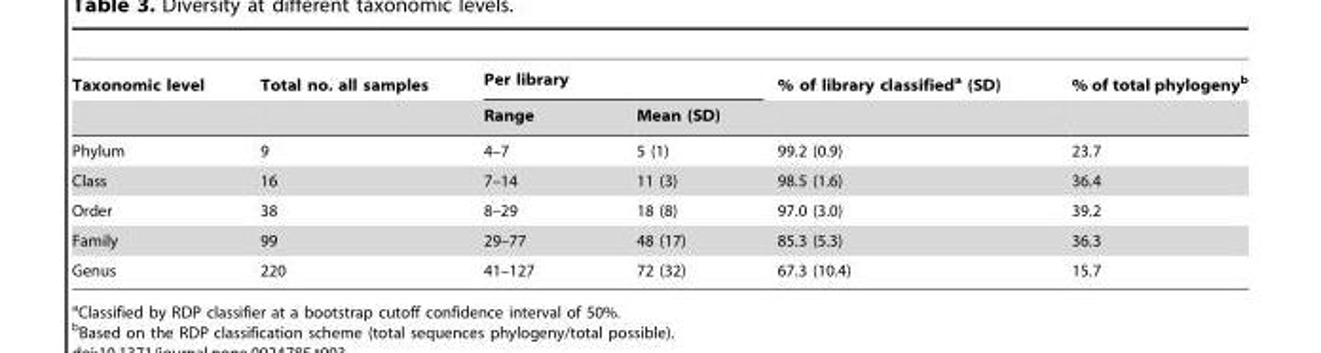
<table><thead><tr><td rowspan="2">Taxonomic level</td><td rowspan="2">Total no. all samples</td><td colspan="2">Per library</td><td rowspan="2">% of library classified<sup>a</sup> (SD)</td><td rowspan="2">% of total phylogeny<sup>b</sup></td></tr><tr><td>Range</td><td>Mean (SD)</td></tr></thead><tbody><tr><td>Phylum</td><td>9</td><td>4–7</td><td>5 (1)</td><td>99.2 (0.9)</td><td>23.7</td></tr><tr><td>Class</td><td>16</td><td>7–14</td><td>11 (3)</td><td>98.5 (1.6)</td><td>36.4</td></tr><tr><td>Order</td><td>38</td><td>8–29</td><td>18 (8)</td><td>97.0 (3.0)</td><td>39.2</td></tr><tr><td>Family</td><td>99</td><td>29–77</td><td>48 (17)</td><td>85.3 (5.3)</td><td>36.3</td></tr><tr><td>Genus</td><td>220</td><td>41–127</td><td>72 (32)</td><td>67.3 (10.4)</td><td>15.7</td></tr></tbody></table>